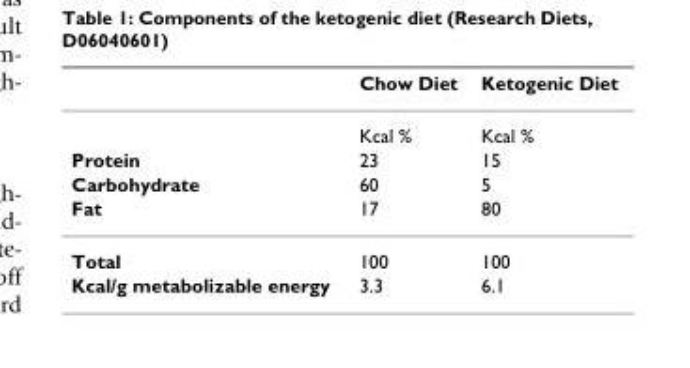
<table><thead><tr><td></td><td>Chow Diet</td><td>Ketogenic Diet</td></tr></thead><tbody><tr><td></td><td>Kcal %</td><td>Kcal %</td></tr><tr><td>Protein</td><td>23</td><td>15</td></tr><tr><td>Carbohydrate</td><td>60</td><td>5</td></tr><tr><td>Fat</td><td>17</td><td>80</td></tr><tr><td>Total</td><td>100</td><td>100</td></tr><tr><td>Kcal/g metabolizable energy</td><td>3.3</td><td>6.1</td></tr></tbody></table>